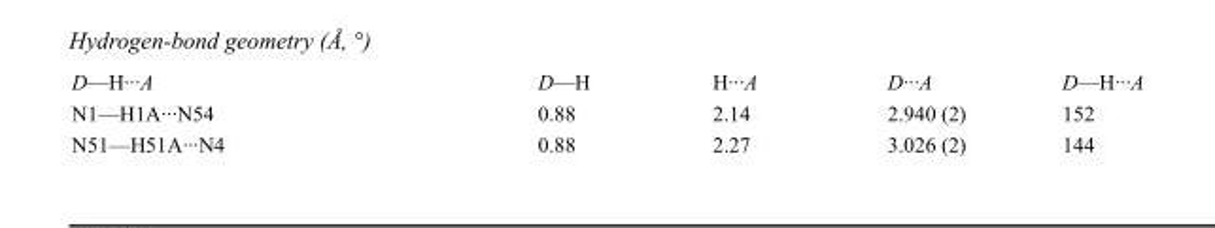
<table><tbody><tr><td>D—H···A</td><td>D—H</td><td>H···A</td><td>D···A</td><td>D—H···A</td></tr><tr><td>N1—H1A···N54</td><td>0.88</td><td>2.14</td><td>2.940 (2)</td><td>152</td></tr><tr><td>N51—H51A···N4</td><td>0.88</td><td>2.27</td><td>3.026 (2)</td><td>144</td></tr></tbody></table>